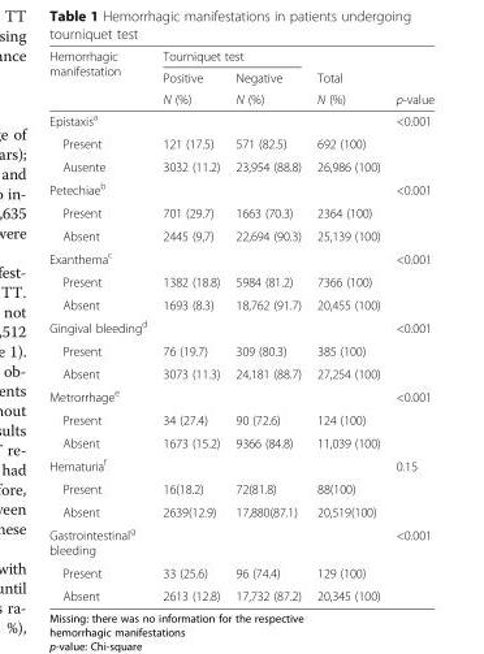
<table><thead><tr><td rowspan="3">Hemorrhagic manifestation</td><td colspan="2">Tourniquet test</td><td rowspan="3">Total N (%)</td><td rowspan="3">p-value</td></tr><tr><td rowspan="2">Positive N (%)</td><td rowspan="2">Negative N (%)</td></tr><tr></tr></thead><tbody><tr><td>Epistaxis<sup>a</sup></td><td></td><td></td><td></td><td>&lt;0.001</td></tr><tr><td>Present</td><td>121 (17.5)</td><td>571 (82.5)</td><td>692 (100)</td><td></td></tr><tr><td>Ausente</td><td>3032 (11.2)</td><td>23,954 (88.8)</td><td>26,986 (100)</td><td></td></tr><tr><td>Petechiae<sup>b</sup></td><td></td><td></td><td></td><td>&lt;0.001</td></tr><tr><td>Present</td><td>701 (29.7)</td><td>1663 (70.3)</td><td>2364 (100)</td><td></td></tr><tr><td>Absent</td><td>2445 (9,7)</td><td>22,694 (90.3)</td><td>25,139 (100)</td><td></td></tr><tr><td>Exanthema<sup>c</sup></td><td></td><td></td><td></td><td>&lt;0.001</td></tr><tr><td>Present</td><td>1382 (18.8)</td><td>5984 (81.2)</td><td>7366 (100)</td><td></td></tr><tr><td>Absent</td><td>1693 (8.3)</td><td>18,762 (91.7)</td><td>20,455 (100)</td><td></td></tr><tr><td>Gingival bleeding<sup>d</sup></td><td></td><td></td><td></td><td>&lt;0.001</td></tr><tr><td>Present</td><td>76 (19.7)</td><td>309 (80.3)</td><td>385 (100)</td><td></td></tr><tr><td>Absent</td><td>3073 (11.3)</td><td>24,181 (88.7)</td><td>27,254 (100)</td><td></td></tr><tr><td>Metrorrhage<sup>e</sup></td><td></td><td></td><td></td><td>&lt;0.001</td></tr><tr><td>Present</td><td>34 (27.4)</td><td>90 (72.6)</td><td>124 (100)</td><td></td></tr><tr><td>Absent</td><td>1673 (15.2)</td><td>9366 (84.8)</td><td>11,039 (100)</td><td></td></tr><tr><td>Hematuria<sup>f</sup></td><td></td><td></td><td></td><td>0.15</td></tr><tr><td>Present</td><td>16(18.2)</td><td>72(81.8)</td><td>88(100)</td><td></td></tr><tr><td>Absent</td><td>2639(12.9)</td><td>17,880(87.1)</td><td>20,519(100)</td><td></td></tr><tr><td>Gastrointestinal<sup>g</sup> bleeding</td><td></td><td></td><td></td><td>&lt;0.001</td></tr><tr><td>Present</td><td>33 (25.6)</td><td>96 (74.4)</td><td>129 (100)</td><td></td></tr><tr><td>Absent</td><td>2613 (12.8)</td><td>17,732 (87.2)</td><td>20,345 (100)</td><td></td></tr></tbody></table>